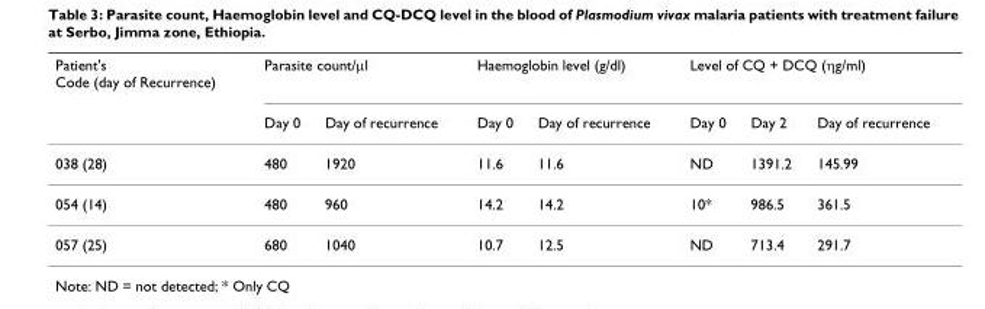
<table><thead><tr><td rowspan="2">Patient&#x27;s Code (day of Recurrence)</td><td colspan="2">Parasite count/μl</td><td colspan="2">Haemoglobin level (g/dl)</td><td colspan="3">Level of CQ + DCQ (ηg/ml)</td></tr><tr><td>Day 0</td><td>Day of recurrence</td><td>Day 0</td><td>Day of recurrence</td><td>Day 0</td><td>Day 2</td><td>Day of recurrence</td></tr></thead><tbody><tr><td>038 (28)</td><td>480</td><td>1920</td><td>11.6</td><td>11.6</td><td>ND</td><td>1391.2</td><td>145.99</td></tr><tr><td>054 (14)</td><td>480</td><td>960</td><td>14.2</td><td>14.2</td><td>10*</td><td>986.5</td><td>361.5</td></tr><tr><td>057 (25)</td><td>680</td><td>1040</td><td>10.7</td><td>12.5</td><td>ND</td><td>713.4</td><td>291.7</td></tr></tbody></table>